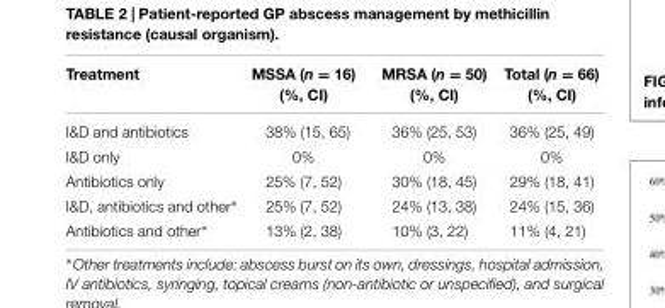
<table><thead><tr><td>Treatment</td><td>MSSA (n = 16) (%, CI)</td><td>MRSA (n = 50) (%, CI)</td><td>Total (n = 66) (%, CI)</td></tr></thead><tbody><tr><td>I&amp;D and antibiotics</td><td>38% (15, 65)</td><td>36% (25, 53)</td><td>36% (25, 49)</td></tr><tr><td>I&amp;D only</td><td>0%</td><td>0%</td><td>0%</td></tr><tr><td>Antibiotics only</td><td>25% (7, 52)</td><td>30% (18, 45)</td><td>29% (18, 41)</td></tr><tr><td>I&amp;D, antibiotics and other∗</td><td>25% (7, 52)</td><td>24% (13, 38)</td><td>24% (15, 36)</td></tr><tr><td>Antibiotics and other∗</td><td>13% (2, 38)</td><td>10% (3, 22)</td><td>11% (4, 21)</td></tr></tbody></table>